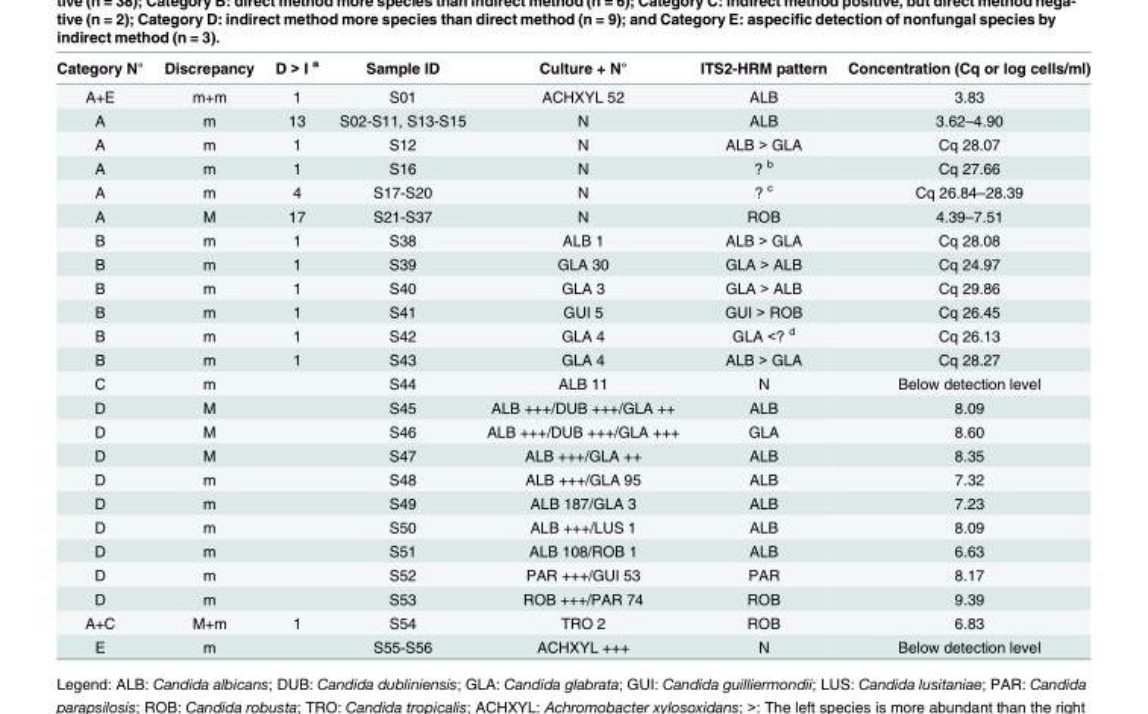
<table><thead><tr><td>Category N°</td><td>Discrepancy</td><td>D &gt; I <sup>a</sup></td><td>Sample ID</td><td>Culture + N°</td><td>ITS2-HRM pattern</td><td>Concentration (Cq or log cells/ml)</td></tr></thead><tbody><tr><td>A+E</td><td>m+m</td><td>1</td><td>S01</td><td>ACHXYL 52</td><td>ALB</td><td>3.83</td></tr><tr><td>A</td><td>m</td><td>13</td><td>S02-S11, S13-S15</td><td>N</td><td>ALB</td><td>3.62–4.90</td></tr><tr><td>A</td><td>m</td><td>1</td><td>S12</td><td>N</td><td>ALB &gt; GLA</td><td>Cq 28.07</td></tr><tr><td>A</td><td>m</td><td>1</td><td>S16</td><td>N</td><td>? <sup>b</sup></td><td>Cq 27.66</td></tr><tr><td>A</td><td>m</td><td>4</td><td>S17-S20</td><td>N</td><td>? <sup>c</sup></td><td>Cq 26.84–28.39</td></tr><tr><td>A</td><td>M</td><td>17</td><td>S21-S37</td><td>N</td><td>ROB</td><td>4.39–7.51</td></tr><tr><td>B</td><td>m</td><td>1</td><td>S38</td><td>ALB 1</td><td>ALB &gt; GLA</td><td>Cq 28.08</td></tr><tr><td>B</td><td>m</td><td>1</td><td>S39</td><td>GLA 30</td><td>GLA &gt; ALB</td><td>Cq 24.97</td></tr><tr><td>B</td><td>m</td><td>1</td><td>S40</td><td>GLA 3</td><td>GLA &gt; ALB</td><td>Cq 29.86</td></tr><tr><td>B</td><td>m</td><td>1</td><td>S41</td><td>GUI 5</td><td>GUI &gt; ROB</td><td>Cq 26.45</td></tr><tr><td>B</td><td>m</td><td>1</td><td>S42</td><td>GLA 4</td><td>GLA &lt;? <sup>d</sup></td><td>Cq 26.13</td></tr><tr><td>B</td><td>m</td><td>1</td><td>S43</td><td>GLA 4</td><td>ALB &gt; GLA</td><td>Cq 28.27</td></tr><tr><td>C</td><td>m</td><td></td><td>S44</td><td>ALB 11</td><td>N</td><td>Below detection level</td></tr><tr><td>D</td><td>M</td><td></td><td>S45</td><td>ALB +++/DUB +++/GLA ++</td><td>ALB</td><td>8.09</td></tr><tr><td>D</td><td>M</td><td></td><td>S46</td><td>ALB +++/DUB +++/GLA +++</td><td>GLA</td><td>8.60</td></tr><tr><td>D</td><td>M</td><td></td><td>S47</td><td>ALB +++/GLA ++</td><td>ALB</td><td>8.35</td></tr><tr><td>D</td><td>m</td><td></td><td>S48</td><td>ALB +++/GLA 95</td><td>ALB</td><td>7.32</td></tr><tr><td>D</td><td>m</td><td></td><td>S49</td><td>ALB 187/GLA 3</td><td>ALB</td><td>7.23</td></tr><tr><td>D</td><td>m</td><td></td><td>S50</td><td>ALB +++/LUS 1</td><td>ALB</td><td>8.09</td></tr><tr><td>D</td><td>m</td><td></td><td>S51</td><td>ALB 108/ROB 1</td><td>ALB</td><td>6.63</td></tr><tr><td>D</td><td>m</td><td></td><td>S52</td><td>PAR +++/GUI 53</td><td>PAR</td><td>8.17</td></tr><tr><td>D</td><td>m</td><td></td><td>S53</td><td>ROB +++/PAR 74</td><td>ROB</td><td>9.39</td></tr><tr><td>A+C</td><td>M+m</td><td>1</td><td>S54</td><td>TRO 2</td><td>ROB</td><td>6.83</td></tr><tr><td>E</td><td>m</td><td></td><td>S55-S56</td><td>ACHXYL +++</td><td>N</td><td>Below detection level</td></tr></tbody></table>